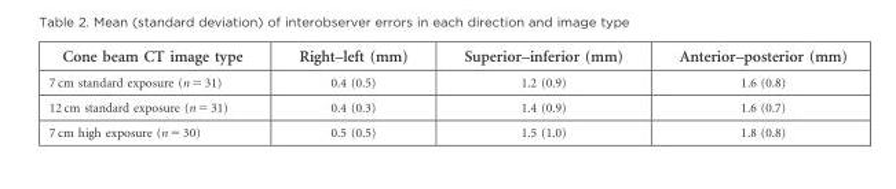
<table><thead><tr><td>Cone beam CT image type</td><td>Right–left (mm)</td><td>Superior–inferior (mm)</td><td>Anterior–posterior (mm)</td></tr></thead><tbody><tr><td>7 cm standard exposure (n = 31)</td><td>0.4 (0.5)</td><td>1.2 (0.9)</td><td>1.6 (0.8)</td></tr><tr><td>12 cm standard exposure (n = 31)</td><td>0.4 (0.3)</td><td>1.4 (0.9)</td><td>1.6 (0.7)</td></tr><tr><td>7 cm high exposure (n = 30)</td><td>0.5 (0.5)</td><td>1.5 (1.0)</td><td>1.8 (0.8)</td></tr></tbody></table>